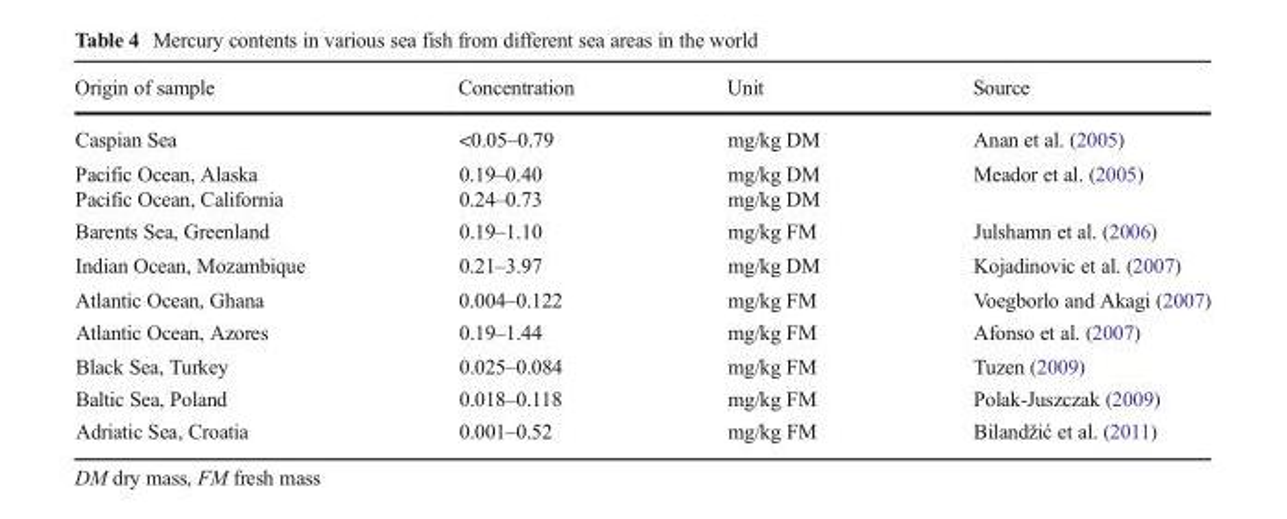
<table><thead><tr><td>Origin of sample</td><td>Concentration</td><td>Unit</td><td>Source</td></tr></thead><tbody><tr><td>Caspian Sea</td><td>&lt;0.05–0.79</td><td>mg/kg DM</td><td>Anan et al. (2005)</td></tr><tr><td>Pacific Ocean, Alaska</td><td>0.19–0.40</td><td>mg/kg DM</td><td rowspan="2">Meador et al. (2005)</td></tr><tr><td>Pacific Ocean, California</td><td>0.24–0.73</td><td>mg/kg DM</td></tr><tr><td>Barents Sea, Greenland</td><td>0.19–1.10</td><td>mg/kg FM</td><td>Julshamn et al. (2006)</td></tr><tr><td>Indian Ocean, Mozambique</td><td>0.21–3.97</td><td>mg/kg DM</td><td>Kojadinovic et al. (2007)</td></tr><tr><td>Atlantic Ocean, Ghana</td><td>0.004–0.122</td><td>mg/kg FM</td><td>Voegborlo and Akagi (2007)</td></tr><tr><td>Atlantic Ocean, Azores</td><td>0.19–1.44</td><td>mg/kg FM</td><td>Afonso et al. (2007)</td></tr><tr><td>Black Sea, Turkey</td><td>0.025–0.084</td><td>mg/kg FM</td><td>Tuzen (2009)</td></tr><tr><td>Baltic Sea, Poland</td><td>0.018–0.118</td><td>mg/kg FM</td><td>Polak-Juszczak (2009)</td></tr><tr><td>Adriatic Sea, Croatia</td><td>0.001–0.52</td><td>mg/kg FM</td><td>Bilandžić et al. (2011)</td></tr></tbody></table>